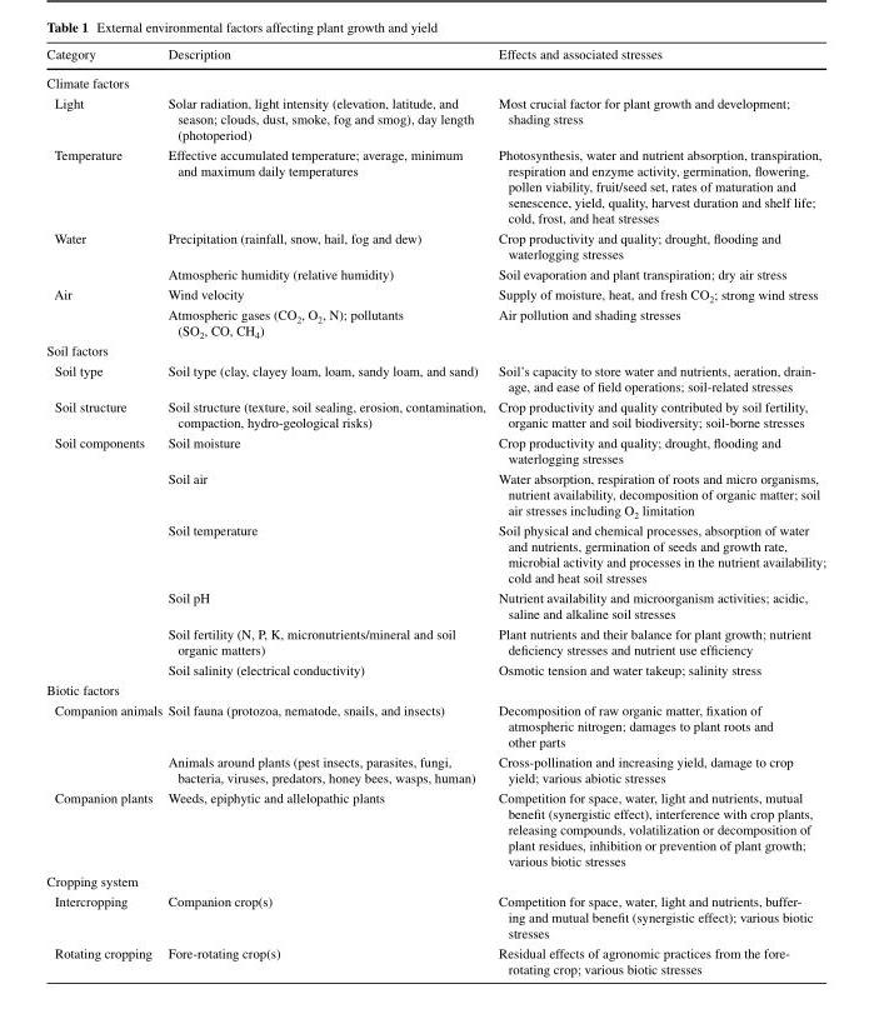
<table><thead><tr><td>Category</td><td>Description</td><td>Effects and associated stresses</td></tr></thead><tbody><tr><td colspan="3">Climate factors</td></tr><tr><td>Light</td><td>Solar radiation, light intensity (elevation, latitude, and season; clouds, dust, smoke, fog and smog), day length (photoperiod)</td><td>Most crucial factor for plant growth and development; shading stress</td></tr><tr><td>Temperature</td><td>Effective accumulated temperature; average, minimum and maximum daily temperatures</td><td>Photosynthesis, water and nutrient absorption, transpiration, respiration and enzyme activity, germination, flowering, pollen viability, fruit/seed set, rates of maturation and senescence, yield, quality, harvest duration and shelf life; cold, frost, and heat stresses</td></tr><tr><td rowspan="2">Water</td><td>Precipitation (rainfall, snow, hail, fog and dew)</td><td>Crop productivity and quality; drought, flooding and waterlogging stresses</td></tr><tr><td>Atmospheric humidity (relative humidity)</td><td>Soil evaporation and plant transpiration; dry air stress</td></tr><tr><td rowspan="2">Air</td><td>Wind velocity</td><td>Supply of moisture, heat, and fresh CO<sub>2</sub>; strong wind stress</td></tr><tr><td>Atmospheric gases (CO<sub>2</sub>, O<sub>2</sub>, N); pollutants (SO<sub>2</sub>, CO, CH<sub>4</sub>)</td><td>Air pollution and shading stresses</td></tr><tr><td colspan="3">Soil factors</td></tr><tr><td>Soil type</td><td>Soil type (clay, clayey loam, loam, sandy loam, and sand)</td><td>Soil’s capacity to store water and nutrients, aeration, drain- age, and ease of field operations; soil-related stresses</td></tr><tr><td>Soil structure</td><td>Soil structure (texture, soil sealing, erosion, contamination, compaction, hydro-geological risks)</td><td>Crop productivity and quality contributed by soil fertility, organic matter and soil biodiversity; soil-borne stresses</td></tr><tr><td rowspan="6">Soil components</td><td>Soil moisture</td><td>Crop productivity and quality; drought, flooding and waterlogging stresses</td></tr><tr><td>Soil air</td><td>Water absorption, respiration of roots and micro organisms, nutrient availability, decomposition of organic matter; soil air stresses including O<sub>2</sub> limitation</td></tr><tr><td>Soil temperature</td><td>Soil physical and chemical processes, absorption of water and nutrients, germination of seeds and growth rate, microbial activity and processes in the nutrient availability; cold and heat soil stresses</td></tr><tr><td>Soil pH</td><td>Nutrient availability and microorganism activities; acidic, saline and alkaline soil stresses</td></tr><tr><td>Soil fertility (N, P, K, micronutrients/mineral and soil organic matters)</td><td>Plant nutrients and their balance for plant growth; nutrient deficiency stresses and nutrient use efficiency</td></tr><tr><td>Soil salinity (electrical conductivity)</td><td>Osmotic tension and water takeup; salinity stress</td></tr><tr><td colspan="3">Biotic factors</td></tr><tr><td rowspan="2">Companion animals</td><td>Soil fauna (protozoa, nematode, snails, and insects)</td><td>Decomposition of raw organic matter, fixation of atmospheric nitrogen; damages to plant roots and other parts</td></tr><tr><td>Animals around plants (pest insects, parasites, fungi, bacteria, viruses, predators, honey bees, wasps, human)</td><td>Cross-pollination and increasing yield, damage to crop yield; various abiotic stresses</td></tr><tr><td>Companion plants</td><td>Weeds, epiphytic and allelopathic plants</td><td>Competition for space, water, light and nutrients, mutual benefit (synergistic effect), interference with crop plants, releasing compounds, volatilization or decomposition of plant residues, inhibition or prevention of plant growth; various biotic stresses</td></tr><tr><td colspan="3">Cropping system</td></tr><tr><td>Intercropping</td><td>Companion crop(s)</td><td>Competition for space, water, light and nutrients, buffer- ing and mutual benefit (synergistic effect); various biotic stresses</td></tr><tr><td>Rotating cropping</td><td>Fore-rotating crop(s)</td><td>Residual effects of agronomic practices from the fore- rotating crop; various biotic stresses</td></tr></tbody></table>